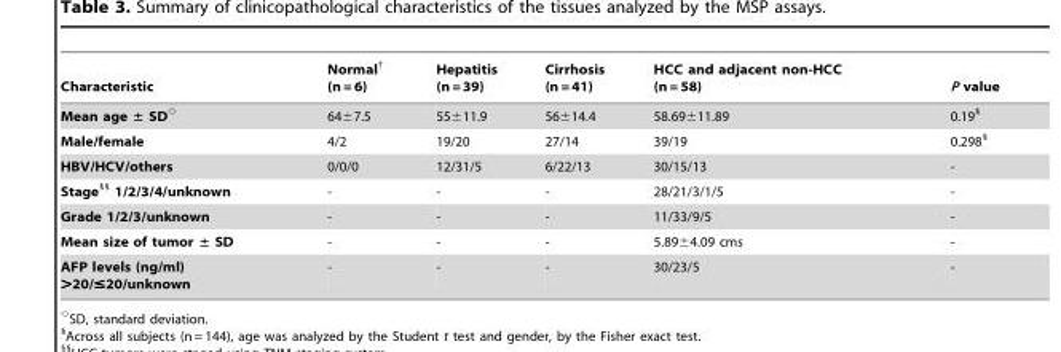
<table><thead><tr><td>Characteristic</td><td>Normal† (n = 6)</td><td>Hepatitis (n = 39)</td><td>Cirrhosis (n = 41)</td><td>HCC and adjacent non-HCC (n = 58)</td><td>P value</td></tr></thead><tbody><tr><td>Mean age ± SD◊</td><td>64±7.5</td><td>55±11.9</td><td>56±14.4</td><td>58.69±11.89</td><td>0.19§</td></tr><tr><td>Male/female</td><td>4/2</td><td>19/20</td><td>27/14</td><td>39/19</td><td>0.298§</td></tr><tr><td>HBV/HCV/others</td><td>0/0/0</td><td>12/31/5</td><td>6/22/13</td><td>30/15/13</td><td>-</td></tr><tr><td>Stage§§ 1/2/3/4/unknown</td><td>-</td><td>-</td><td>-</td><td>28/21/3/1/5</td><td>-</td></tr><tr><td>Grade 1/2/3/unknown</td><td>-</td><td>-</td><td>-</td><td>11/33/9/5</td><td>-</td></tr><tr><td>Mean size of tumor ± SD</td><td>-</td><td>-</td><td>-</td><td>5.89±4.09 cms</td><td>-</td></tr><tr><td>AFP levels (ng/ml) &gt;20/≤20/unknown</td><td>-</td><td>-</td><td>-</td><td>30/23/5</td><td>-</td></tr></tbody></table>